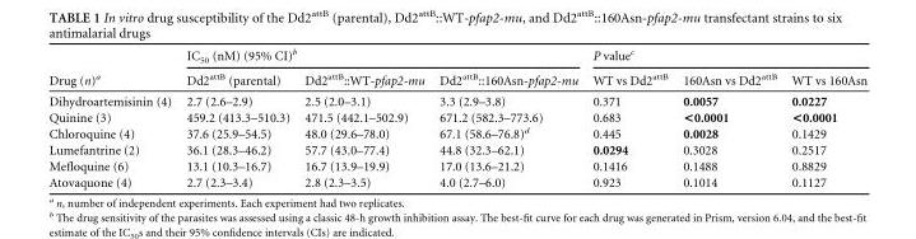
<table><thead><tr><td rowspan="2">Drug (n)<sup>a</sup></td><td colspan="3">IC<sub>50</sub> (nM) (95% CI)<sup>b</sup></td><td colspan="3">P value<sup>c</sup></td></tr><tr><td>Dd2<sup>attB</sup> (parental)</td><td>Dd2<sup>attB</sup>::WT-pfap2-mu</td><td>Dd2<sup>attB</sup>::160Asn-pfap2-mu</td><td>WT vs Dd2<sup>attB</sup></td><td>160Asn vs Dd2<sup>attB</sup></td><td>WT vs 160Asn</td></tr></thead><tbody><tr><td>Dihydroartemisinin (4)</td><td>2.7 (2.6–2.9)</td><td>2.5 (2.0–3.1)</td><td>3.3 (2.9–3.8)</td><td>0.371</td><td>0.0057</td><td>0.0227</td></tr><tr><td>Quinine (3)</td><td>459.2 (413.3–510.3)</td><td>471.5 (442.1–502.9)</td><td>671.2 (582.3–773.6)</td><td>0.683</td><td>&lt;0.0001</td><td>&lt;0.0001</td></tr><tr><td>Chloroquine (4)</td><td>37.6 (25.9–54.5)</td><td>48.0 (29.6–78.0)</td><td>67.1 (58.6–76.8)<sup>d</sup></td><td>0.445</td><td>0.0028</td><td>0.1429</td></tr><tr><td>Lumefantrine (2)</td><td>36.1 (28.3–46.2)</td><td>57.7 (43.0–77.4)</td><td>44.8 (32.3–62.1)</td><td>0.0294</td><td>0.3028</td><td>0.2517</td></tr><tr><td>Mefloquine (6)</td><td>13.1 (10.3–16.7)</td><td>16.7 (13.9–19.9)</td><td>17.0 (13.6–21.2)</td><td>0.1416</td><td>0.1488</td><td>0.8829</td></tr><tr><td>Atovaquone (4)</td><td>2.7 (2.3–3.4)</td><td>2.8 (2.3–3.5)</td><td>4.0 (2.7–6.0)</td><td>0.923</td><td>0.1014</td><td>0.1127</td></tr></tbody></table>